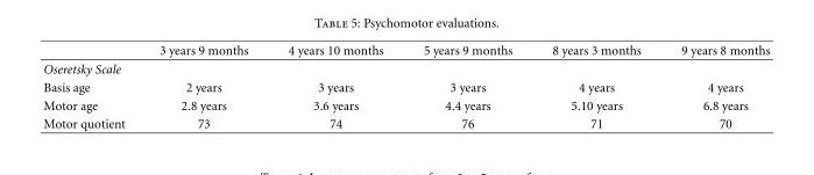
<table><thead><tr><td></td><td>3 years 9 months</td><td>4 years 10 months</td><td>5 years 9 months</td><td>8 years 3 months</td><td>9 years 8 months</td></tr></thead><tbody><tr><td colspan="6">Oseretsky Scale</td></tr><tr><td>Basis age</td><td>2 years</td><td>3 years</td><td>3 years</td><td>4 years</td><td>4 years</td></tr><tr><td>Motor age</td><td>2.8 years</td><td>3.6 years</td><td>4.4 years</td><td>5.10 years</td><td>6.8 years</td></tr><tr><td>Motor quotient</td><td>73</td><td>74</td><td>76</td><td>71</td><td>70</td></tr></tbody></table>